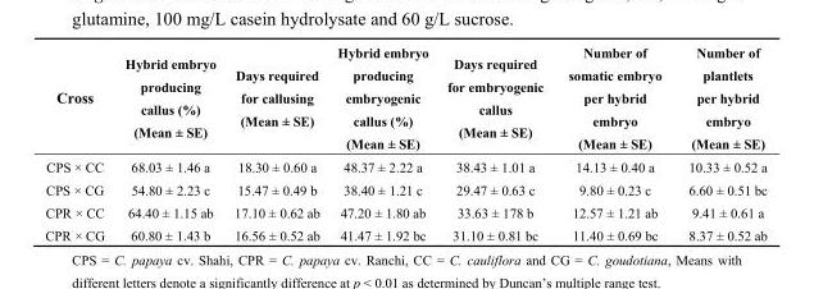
<table><thead><tr><td>Cross</td><td>Hybrid embryo producing callus (%) (Mean ± SE)</td><td>Days required for callusing (Mean ± SE)</td><td>Hybrid embryo producing embryogenic callus (%) (Mean ± SE)</td><td>Days required for embryogenic callus (Mean ± SE)</td><td>Number of somatic embryo per hybrid embryo (Mean ± SE)</td><td>Number of plantlets per hybrid embryo (Mean ± SE)</td></tr></thead><tbody><tr><td>CPS × CC</td><td>68.03 ± 1.46 a</td><td>18.30 ± 0.60 a</td><td>48.37 ± 2.22 a</td><td>38.43 ± 1.01 a</td><td>14.13 ± 0.40 a</td><td>10.33 ± 0.52 a</td></tr><tr><td>CPS × CG</td><td>54.80 ± 2.23 c</td><td>15.47 ± 0.49 b</td><td>38.40 ± 1.21 c</td><td>29.47 ± 0.63 c</td><td>9.80 ± 0.23 c</td><td>6.60 ± 0.51 bc</td></tr><tr><td>CPR × CC</td><td>64.40 ± 1.15 ab</td><td>17.10 ± 0.62 ab</td><td>47.20 ± 1.80 ab</td><td>33.63 ± 178 b</td><td>12.57 ± 1.21 ab</td><td>9.41 ± 0.61 a</td></tr><tr><td>CPR × CG</td><td>60.80 ± 1.43 b</td><td>16.56 ± 0.52 ab</td><td>41.47 ± 1.92 bc</td><td>31.10 ± 0.81 bc</td><td>11.40 ± 0.69 bc</td><td>8.37 ± 0.52 ab</td></tr></tbody></table>